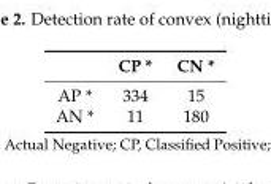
<table><thead><tr><td></td><td>CP *</td><td>CN *</td></tr></thead><tbody><tr><td>AP *</td><td>334</td><td>15</td></tr><tr><td>AN *</td><td>11</td><td>180</td></tr></tbody></table>